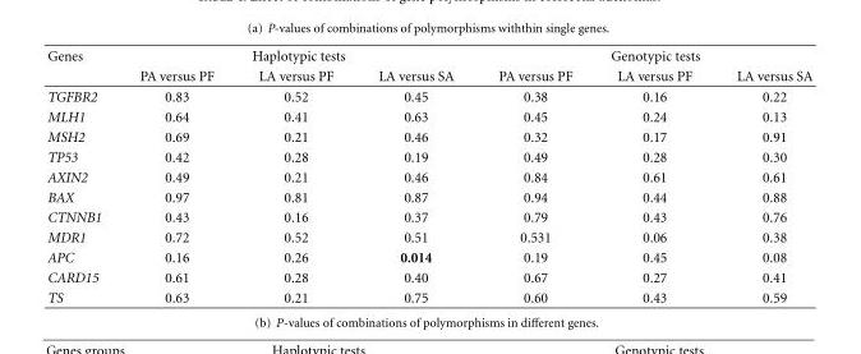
<table><thead><tr><td rowspan="2">Genes</td><td colspan="3">Haplotypic tests</td><td colspan="3">Genotypic tests</td></tr><tr><td>PA versus PF</td><td>LA versus PF</td><td>LA versus SA</td><td>PA versus PF</td><td>LA versus PF</td><td>LA versus SA</td></tr></thead><tbody><tr><td>TGFBR2</td><td>0.83</td><td>0.52</td><td>0.45</td><td>0.38</td><td>0.16</td><td>0.22</td></tr><tr><td>MLH1</td><td>0.64</td><td>0.41</td><td>0.63</td><td>0.45</td><td>0.24</td><td>0.13</td></tr><tr><td>MSH2</td><td>0.69</td><td>0.21</td><td>0.46</td><td>0.32</td><td>0.17</td><td>0.91</td></tr><tr><td>TP53</td><td>0.42</td><td>0.28</td><td>0.19</td><td>0.49</td><td>0.28</td><td>0.30</td></tr><tr><td>AXIN2</td><td>0.49</td><td>0.21</td><td>0.46</td><td>0.84</td><td>0.61</td><td>0.61</td></tr><tr><td>BAX</td><td>0.97</td><td>0.81</td><td>0.87</td><td>0.94</td><td>0.44</td><td>0.88</td></tr><tr><td>CTNNB1</td><td>0.43</td><td>0.16</td><td>0.37</td><td>0.79</td><td>0.43</td><td>0.76</td></tr><tr><td>MDR1</td><td>0.72</td><td>0.52</td><td>0.51</td><td>0.531</td><td>0.06</td><td>0.38</td></tr><tr><td>APC</td><td>0.16</td><td>0.26</td><td>0.014</td><td>0.19</td><td>0.45</td><td>0.08</td></tr><tr><td>CARD15</td><td>0.61</td><td>0.28</td><td>0.40</td><td>0.67</td><td>0.27</td><td>0.41</td></tr><tr><td>TS</td><td>0.63</td><td>0.21</td><td>0.75</td><td>0.60</td><td>0.43</td><td>0.59</td></tr></tbody></table>